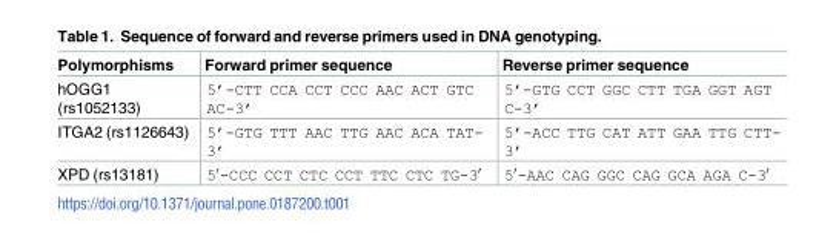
<table><thead><tr><td>Polymorphisms</td><td>Forward primer sequence</td><td>Reverse primer sequence</td></tr></thead><tbody><tr><td>hOGG1 (rs1052133)</td><td>5’-CTT CCA CCT CCC AAC ACT GTC AC-3’</td><td>5’-GTG CCT GGC CTT TGA GGT AGT C-3’</td></tr><tr><td>ITGA2 (rs1126643)</td><td>5’-GTG TTT AAC TTG AAC ACA TAT- 3’</td><td>5’-ACC TTG CAT ATT GAA TTG CTT- 3’</td></tr><tr><td>XPD (rs13181)</td><td>5′-CCC CCT CTC CCT TTC CTC TG-3′</td><td>5′-AAC CAG GGC CAG GCA AGA C-3′</td></tr></tbody></table>